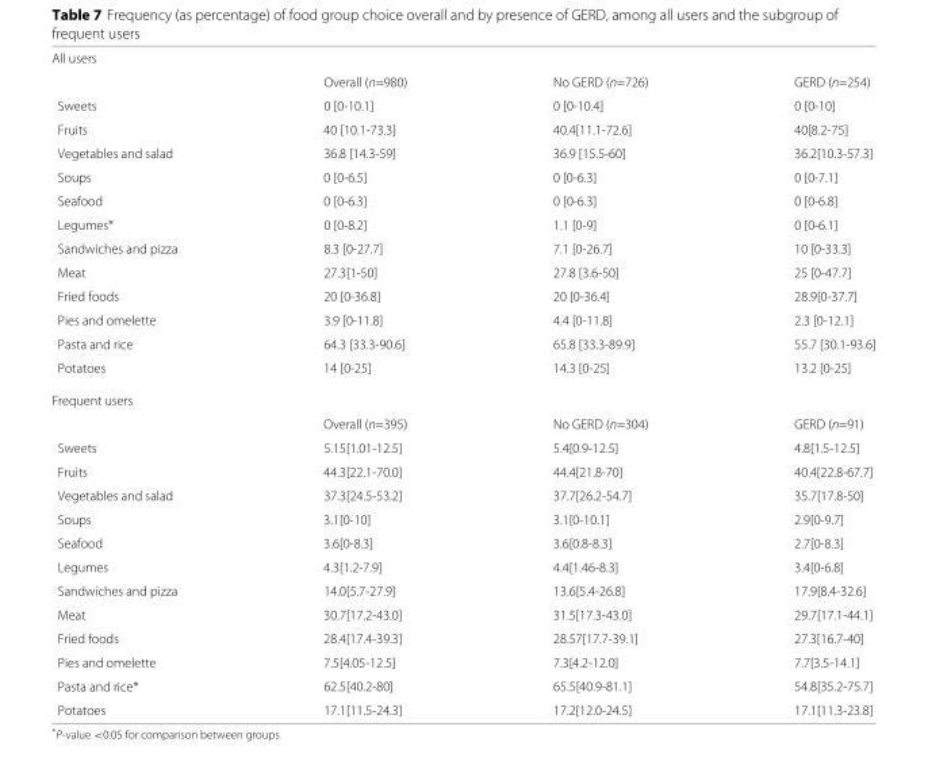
<table><tbody><tr><td colspan="4">All users</td></tr><tr><td></td><td>Overall (n=980)</td><td>No GERD (n=726)</td><td>GERD (n=254)</td></tr><tr><td>Sweets</td><td>0 [0-10.1]</td><td>0 [0-10.4]</td><td>0 [0-10]</td></tr><tr><td>Fruits</td><td>40 [10.1-73.3]</td><td>40.4[11.1-72.6]</td><td>40[8.2-75]</td></tr><tr><td>Vegetables and salad</td><td>36.8 [14.3-59]</td><td>36.9 [15.5-60]</td><td>36.2[10.3-57.3]</td></tr><tr><td>Soups</td><td>0 [0-6.5]</td><td>0 [0-6.3]</td><td>0 [0-7.1]</td></tr><tr><td>Seafood</td><td>0 [0-6.3]</td><td>0 [0-6.3]</td><td>0 [0-6.8]</td></tr><tr><td>Legumes∗</td><td>0 [0-8.2]</td><td>1.1 [0-9]</td><td>0 [0-6.1]</td></tr><tr><td>Sandwiches and pizza</td><td>8.3 [0-27.7]</td><td>7.1 [0-26.7]</td><td>10 [0-33.3]</td></tr><tr><td>Meat</td><td>27.3[1-50]</td><td>27.8 [3.6-50]</td><td>25 [0-47.7]</td></tr><tr><td>Fried foods</td><td>20 [0-36.8]</td><td>20 [0-36.4]</td><td>28.9[0-37.7]</td></tr><tr><td>Pies and omelette</td><td>3.9 [0-11.8]</td><td>4.4 [0-11.8]</td><td>2.3 [0-12.1]</td></tr><tr><td>Pasta and rice</td><td>64.3 [33.3-90.6]</td><td>65.8 [33.3-89.9]</td><td>55.7 [30.1-93.6]</td></tr><tr><td>Potatoes</td><td>14 [0-25]</td><td>14.3 [0-25]</td><td>13.2 [0-25]</td></tr><tr><td colspan="4">Frequent users</td></tr><tr><td></td><td>Overall (n=395)</td><td>No GERD (n=304)</td><td>GERD (n=91)</td></tr><tr><td>Sweets</td><td>5.15[1.01-12.5]</td><td>5.4[0.9-12.5]</td><td>4.8[1.5-12.5]</td></tr><tr><td>Fruits</td><td>44.3[22.1-70.0]</td><td>44.4[21.8-70]</td><td>40.4[22.8-67.7]</td></tr><tr><td>Vegetables and salad</td><td>37.3[24.5-53.2]</td><td>37.7[26.2-54.7]</td><td>35.7[17.8-50]</td></tr><tr><td>Soups</td><td>3.1[0-10]</td><td>3.1[0-10.1]</td><td>2.9[0-9.7]</td></tr><tr><td>Seafood</td><td>3.6[0-8.3]</td><td>3.6[0.8-8.3]</td><td>2.7[0-8.3]</td></tr><tr><td>Legumes</td><td>4.3[1.2-7.9]</td><td>4.4[1.46-8.3]</td><td>3.4[0-6.8]</td></tr><tr><td>Sandwiches and pizza</td><td>14.0[5.7-27.9]</td><td>13.6[5.4-26.8]</td><td>17.9[8.4-32.6]</td></tr><tr><td>Meat</td><td>30.7[17.2-43.0]</td><td>31.5[17.3-43.0]</td><td>29.7[17.1-44.1]</td></tr><tr><td>Fried foods</td><td>28.4[17.4-39.3]</td><td>28.57[17.7-39.1]</td><td>27.3[16.7-40]</td></tr><tr><td>Pies and omelette</td><td>7.5[4.05-12.5]</td><td>7.3[4.2-12.0]</td><td>7.7[3.5-14.1]</td></tr><tr><td>Pasta and rice∗</td><td>62.5[40.2-80]</td><td>65.5[40.9-81.1]</td><td>54.8[35.2-75.7]</td></tr><tr><td>Potatoes</td><td>17.1[11.5-24.3]</td><td>17.2[12.0-24.5]</td><td>17.1[11.3-23.8]</td></tr></tbody></table>